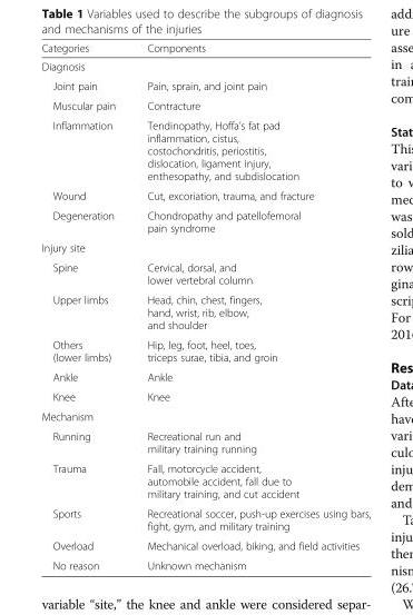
<table><thead><tr><td>Categories</td><td>Components</td></tr></thead><tbody><tr><td colspan="2">Diagnosis</td></tr><tr><td>Joint pain</td><td>Pain, sprain, and joint pain</td></tr><tr><td>Muscular pain</td><td>Contracture</td></tr><tr><td>Inflammation</td><td>Tendinopathy, Hoffa’s fat pad inflammation, cistus, costochondritis, periostitis, dislocation, ligament injury, enthesopathy, and subdislocation</td></tr><tr><td>Wound</td><td>Cut, excoriation, trauma, and fracture</td></tr><tr><td>Degeneration</td><td>Chondropathy and patellofemoral pain syndrome</td></tr><tr><td colspan="2">Injury site</td></tr><tr><td>Spine</td><td>Cervical, dorsal, and lower vertebral column</td></tr><tr><td>Upper limbs</td><td>Head, chin, chest, fingers, hand, wrist, rib, elbow, and shoulder</td></tr><tr><td>Others (lower limbs)</td><td>Hip, leg, foot, heel, toes, triceps surae, tibia, and groin</td></tr><tr><td>Ankle</td><td>Ankle</td></tr><tr><td>Knee</td><td>Knee</td></tr><tr><td colspan="2">Mechanism</td></tr><tr><td>Running</td><td>Recreational run and military training running</td></tr><tr><td>Trauma</td><td>Fall, motorcycle accident, automobile accident, fall due to military training, and cut accident</td></tr><tr><td>Sports</td><td>Recreational soccer, push-up exercises using bars, fight, gym, and military training</td></tr><tr><td>Overload</td><td>Mechanical overload, biking, and field activities</td></tr><tr><td>No reason</td><td>Unknown mechanism</td></tr></tbody></table>